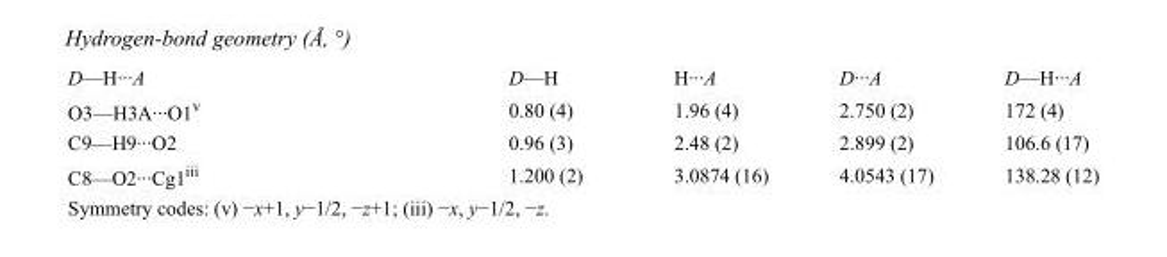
<table><tbody><tr><td>D—H···A</td><td>D—H</td><td>H···A</td><td>D···A</td><td>D—H···A</td></tr><tr><td>O3—H3A···O1<sup>v</sup></td><td>0.80 (4)</td><td>1.96 (4)</td><td>2.750 (2)</td><td>172 (4)</td></tr><tr><td>C9—H9···O2</td><td>0.96 (3)</td><td>2.48 (2)</td><td>2.899 (2)</td><td>106.6 (17)</td></tr><tr><td>C8—O2···Cg1<sup>iii</sup></td><td>1.200 (2)</td><td>3.0874 (16)</td><td>4.0543 (17)</td><td>138.28 (12)</td></tr></tbody></table>